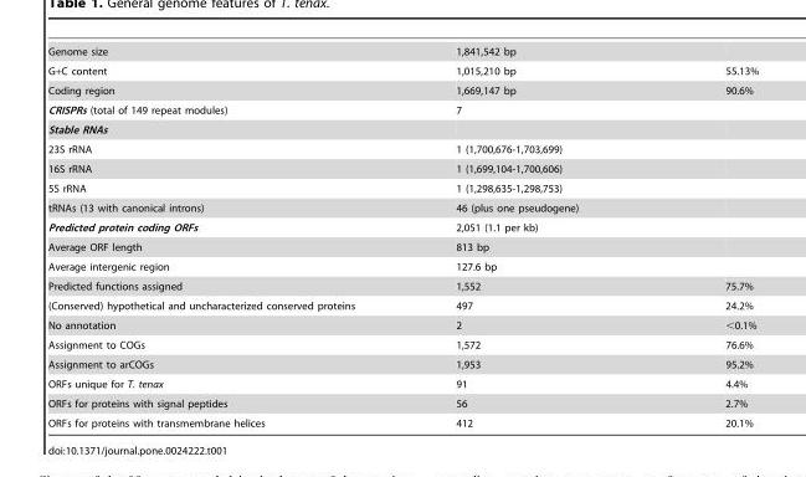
<table><tbody><tr><td>Genome size</td><td>1,841,542 bp</td><td></td></tr><tr><td>G+C content</td><td>1,015,210 bp</td><td>55.13%</td></tr><tr><td>Coding region</td><td>1,669,147 bp</td><td>90.6%</td></tr><tr><td>CRISPRs (total of 149 repeat modules)</td><td>7</td><td></td></tr><tr><td colspan="3">Stable RNAs</td></tr><tr><td>23S rRNA</td><td>1 (1,700,676-1,703,699)</td><td></td></tr><tr><td>16S rRNA</td><td>1 (1,699,104-1,700,606)</td><td></td></tr><tr><td>5S rRNA</td><td>1 (1,298,635-1,298,753)</td><td></td></tr><tr><td>tRNAs (13 with canonical introns)</td><td>46 (plus one pseudogene)</td><td></td></tr><tr><td>Predicted protein coding ORFs</td><td>2,051 (1.1 per kb)</td><td></td></tr><tr><td>Average ORF length</td><td>813 bp</td><td></td></tr><tr><td>Average intergenic region</td><td>127.6 bp</td><td></td></tr><tr><td>Predicted functions assigned</td><td>1,552</td><td>75.7%</td></tr><tr><td>(Conserved) hypothetical and uncharacterized conserved proteins</td><td>497</td><td>24.2%</td></tr><tr><td>No annotation</td><td>2</td><td>&lt;0.1%</td></tr><tr><td>Assignment to COGs</td><td>1,572</td><td>76.6%</td></tr><tr><td>Assignment to arCOGs</td><td>1,953</td><td>95.2%</td></tr><tr><td>ORFs unique for T. tenax</td><td>91</td><td>4.4%</td></tr><tr><td>ORFs for proteins with signal peptides</td><td>56</td><td>2.7%</td></tr><tr><td>ORFs for proteins with transmembrane helices</td><td>412</td><td>20.1%</td></tr></tbody></table>